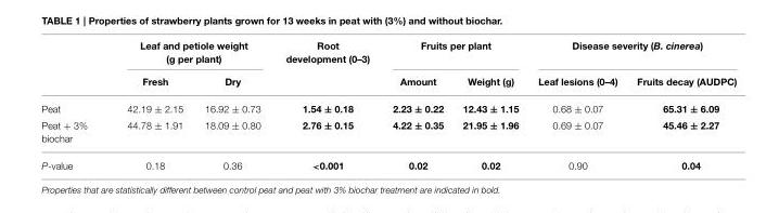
<table><thead><tr><td rowspan="2"></td><td colspan="2">Leaf and petiole weight (g per plant)</td><td rowspan="2">Root development (0–3)</td><td colspan="2">Fruits per plant</td><td colspan="2">Disease severity (B. cinerea)</td></tr><tr><td>Fresh</td><td>Dry</td><td>Amount</td><td>Weight (g)</td><td>Leaf lesions (0–4)</td><td>Fruits decay (AUDPC)</td></tr></thead><tbody><tr><td>Peat</td><td>42.19 ± 2.15</td><td>16.92 ± 0.73</td><td>1.54 ± 0.18</td><td>2.23 ± 0.22</td><td>12.43 ± 1.15</td><td>0.68 ± 0.07</td><td>65.31 ± 6.09</td></tr><tr><td>Peat + 3% biochar</td><td>44.78 ± 1.91</td><td>18.09 ± 0.80</td><td>2.76 ± 0.15</td><td>4.22 ± 0.35</td><td>21.95 ± 1.96</td><td>0.69 ± 0.07</td><td>45.46 ± 2.27</td></tr><tr><td>P-value</td><td>0.18</td><td>0.36</td><td>&lt;0.001</td><td>0.02</td><td>0.02</td><td>0.90</td><td>0.04</td></tr></tbody></table>